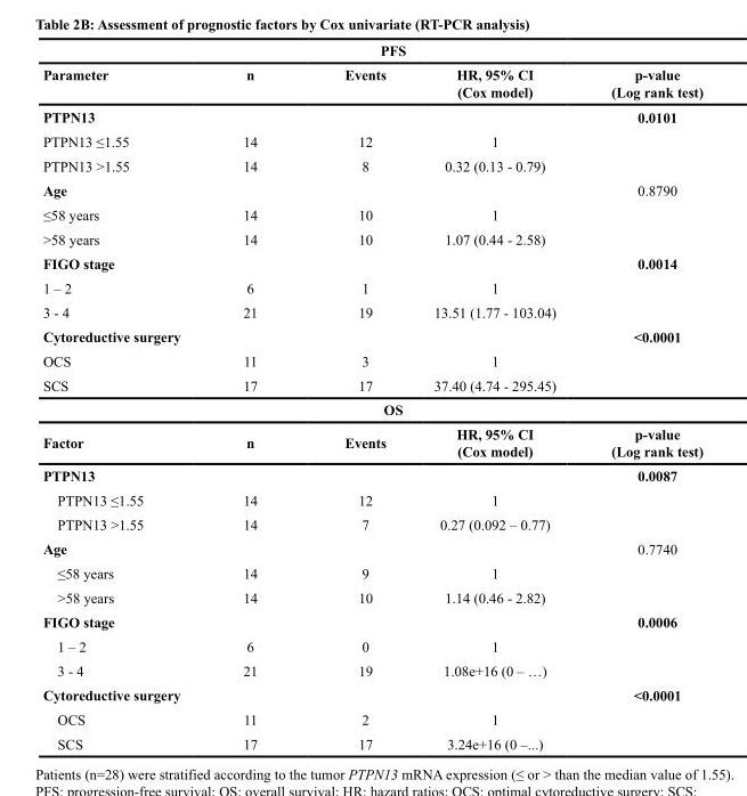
<table><thead><tr><td colspan="5">PFS</td></tr><tr><td>Parameter</td><td>n</td><td>Events</td><td>HR, 95% CI (Cox model)</td><td>p-value (Log rank test)</td></tr></thead><tbody><tr><td>PTPN13</td><td></td><td></td><td></td><td>0.0101</td></tr><tr><td>PTPN13 ≤1.55</td><td>14</td><td>12</td><td>1</td><td></td></tr><tr><td>PTPN13 &gt;1.55</td><td>14</td><td>8</td><td>0.32 (0.13 - 0.79)</td><td></td></tr><tr><td>Age</td><td></td><td></td><td></td><td>0.8790</td></tr><tr><td>≤58 years</td><td>14</td><td>10</td><td>1</td><td></td></tr><tr><td>&gt;58 years</td><td>14</td><td>10</td><td>1.07 (0.44 - 2.58)</td><td></td></tr><tr><td>FIGO stage</td><td></td><td></td><td></td><td>0.0014</td></tr><tr><td>1 – 2</td><td>6</td><td>1</td><td>1</td><td></td></tr><tr><td>3 - 4</td><td>21</td><td>19</td><td>13.51 (1.77 - 103.04)</td><td></td></tr><tr><td>Cytoreductive surgery</td><td></td><td></td><td></td><td>&lt;0.0001</td></tr><tr><td>OCS</td><td>11</td><td>3</td><td>1</td><td></td></tr><tr><td>SCS</td><td>17</td><td>17</td><td>37.40 (4.74 - 295.45)</td><td></td></tr><tr><td colspan="5">OS</td></tr><tr><td>Factor</td><td>n</td><td>Events</td><td>HR, 95% CI (Cox model)</td><td>p-value (Log rank test)</td></tr><tr><td>PTPN13</td><td></td><td></td><td></td><td>0.0087</td></tr><tr><td>PTPN13 ≤1.55</td><td>14</td><td>12</td><td>1</td><td></td></tr><tr><td>PTPN13 &gt;1.55</td><td>14</td><td>7</td><td>0.27 (0.092 – 0.77)</td><td></td></tr><tr><td>Age</td><td></td><td></td><td></td><td>0.7740</td></tr><tr><td>≤58 years</td><td>14</td><td>9</td><td>1</td><td></td></tr><tr><td>&gt;58 years</td><td>14</td><td>10</td><td>1.14 (0.46 - 2.82)</td><td></td></tr><tr><td>FIGO stage</td><td></td><td></td><td></td><td>0.0006</td></tr><tr><td>1 – 2</td><td>6</td><td>0</td><td>1</td><td></td></tr><tr><td>3 - 4</td><td>21</td><td>19</td><td>1.08e+16 (0 – …)</td><td></td></tr><tr><td>Cytoreductive surgery</td><td></td><td></td><td></td><td>&lt;0.0001</td></tr><tr><td>OCS</td><td>11</td><td>2</td><td>1</td><td></td></tr><tr><td>SCS</td><td>17</td><td>17</td><td>3.24e+16 (0 –...)</td><td></td></tr></tbody></table>